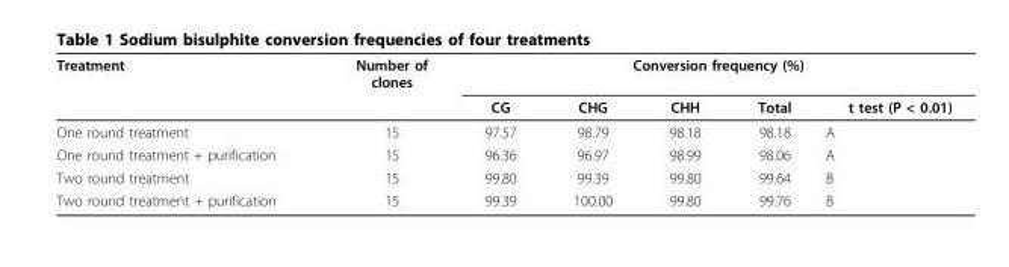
<table><thead><tr><td rowspan="2">Treatment</td><td rowspan="2">Number of clones</td><td colspan="5">Conversion frequency (%)</td></tr><tr><td>CG</td><td>CHG</td><td>CHH</td><td>Total</td><td>t test (P &lt; 0.01)</td></tr></thead><tbody><tr><td>One round treatment</td><td>15</td><td>97.57</td><td>98.79</td><td>98.18</td><td>98.18</td><td>A</td></tr><tr><td>One round treatment + purification</td><td>15</td><td>96.36</td><td>96.97</td><td>98.99</td><td>98.06</td><td>A</td></tr><tr><td>Two round treatment</td><td>15</td><td>99.80</td><td>99.39</td><td>99.80</td><td>99.64</td><td>B</td></tr><tr><td>Two round treatment + purification</td><td>15</td><td>99.39</td><td>100.00</td><td>99.80</td><td>99.76</td><td>B</td></tr></tbody></table>